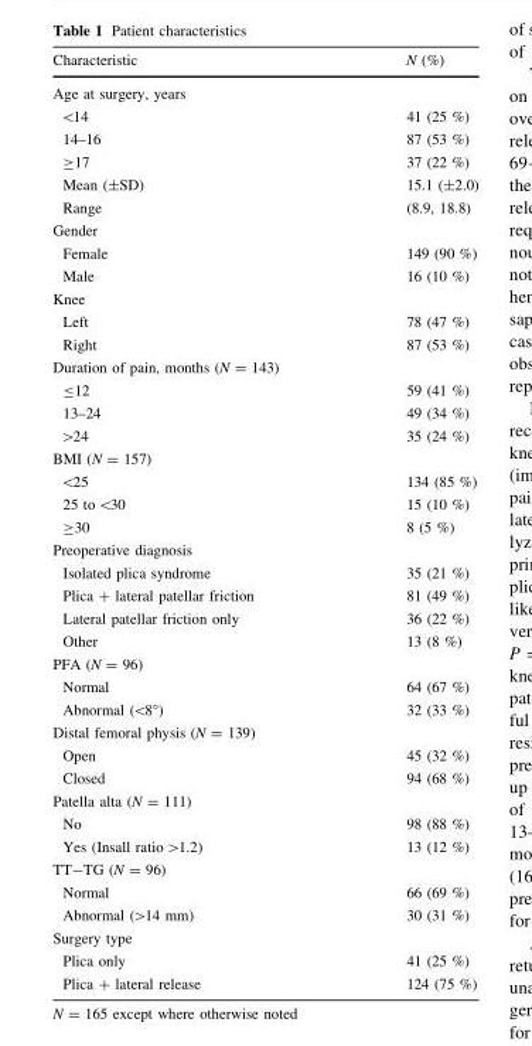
<table><thead><tr><td>Characteristic</td><td>N (%)</td></tr></thead><tbody><tr><td colspan="2">Age at surgery, years</td></tr><tr><td>&lt;14</td><td>41 (25 %)</td></tr><tr><td>14–16</td><td>87 (53 %)</td></tr><tr><td>≥17</td><td>37 (22 %)</td></tr><tr><td>Mean (±SD)</td><td>15.1 (±2.0)</td></tr><tr><td>Range</td><td>(8.9, 18.8)</td></tr><tr><td colspan="2">Gender</td></tr><tr><td>Female</td><td>149 (90 %)</td></tr><tr><td>Male</td><td>16 (10 %)</td></tr><tr><td colspan="2">Knee</td></tr><tr><td>Left</td><td>78 (47 %)</td></tr><tr><td>Right</td><td>87 (53 %)</td></tr><tr><td colspan="2">Duration of pain, months (N = 143)</td></tr><tr><td>≤12</td><td>59 (41 %)</td></tr><tr><td>13–24</td><td>49 (34 %)</td></tr><tr><td>&gt;24</td><td>35 (24 %)</td></tr><tr><td colspan="2">BMI (N = 157)</td></tr><tr><td>&lt;25</td><td>134 (85 %)</td></tr><tr><td>25 to &lt;30</td><td>15 (10 %)</td></tr><tr><td>≥30</td><td>8 (5 %)</td></tr><tr><td colspan="2">Preoperative diagnosis</td></tr><tr><td>Isolated plica syndrome</td><td>35 (21 %)</td></tr><tr><td>Plica + lateral patellar friction</td><td>81 (49 %)</td></tr><tr><td>Lateral patellar friction only</td><td>36 (22 %)</td></tr><tr><td>Other</td><td>13 (8 %)</td></tr><tr><td colspan="2">PFA (N = 96)</td></tr><tr><td>Normal</td><td>64 (67 %)</td></tr><tr><td>Abnormal (&lt;8°)</td><td>32 (33 %)</td></tr><tr><td colspan="2">Distal femoral physis (N = 139)</td></tr><tr><td>Open</td><td>45 (32 %)</td></tr><tr><td>Closed</td><td>94 (68 %)</td></tr><tr><td colspan="2">Patella alta (N = 111)</td></tr><tr><td>No</td><td>98 (88 %)</td></tr><tr><td>Yes (Insall ratio &gt;1.2)</td><td>13 (12 %)</td></tr><tr><td colspan="2">TT-TG (N = 96)</td></tr><tr><td>Normal</td><td>66 (69 %)</td></tr><tr><td>Abnormal (&gt;14 mm)</td><td>30 (31 %)</td></tr><tr><td colspan="2">Surgery type</td></tr><tr><td>Plica only</td><td>41 (25 %)</td></tr><tr><td>Plica + lateral release</td><td>124 (75 %)</td></tr></tbody></table>